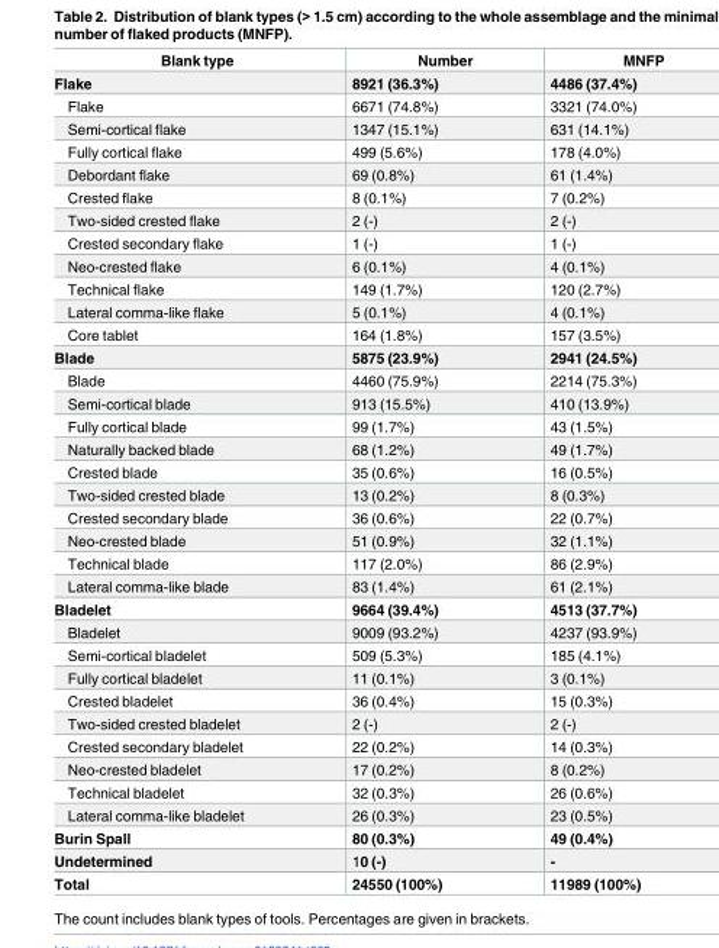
<table><thead><tr><td>Blank type</td><td>Number</td><td>MNFP</td></tr></thead><tbody><tr><td>Flake</td><td>8921 (36.3%)</td><td>4486 (37.4%)</td></tr><tr><td>Flake</td><td>6671 (74.8%)</td><td>3321 (74.0%)</td></tr><tr><td>Semi-cortical flake</td><td>1347 (15.1%)</td><td>631 (14.1%)</td></tr><tr><td>Fully cortical flake</td><td>499 (5.6%)</td><td>178 (4.0%)</td></tr><tr><td>Debordant flake</td><td>69 (0.8%)</td><td>61 (1.4%)</td></tr><tr><td>Crested flake</td><td>8 (0.1%)</td><td>7 (0.2%)</td></tr><tr><td>Two-sided crested flake</td><td>2 (-)</td><td>2 (-)</td></tr><tr><td>Crested secondary flake</td><td>1 (-)</td><td>1 (-)</td></tr><tr><td>Neo-crested flake</td><td>6 (0.1%)</td><td>4 (0.1%)</td></tr><tr><td>Technical flake</td><td>149 (1.7%)</td><td>120 (2.7%)</td></tr><tr><td>Lateral comma-like flake</td><td>5 (0.1%)</td><td>4 (0.1%)</td></tr><tr><td>Core tablet</td><td>164 (1.8%)</td><td>157 (3.5%)</td></tr><tr><td>Blade</td><td>5875 (23.9%)</td><td>2941 (24.5%)</td></tr><tr><td>Blade</td><td>4460 (75.9%)</td><td>2214 (75.3%)</td></tr><tr><td>Semi-cortical blade</td><td>913 (15.5%)</td><td>410 (13.9%)</td></tr><tr><td>Fully cortical blade</td><td>99 (1.7%)</td><td>43 (1.5%)</td></tr><tr><td>Naturally backed blade</td><td>68 (1.2%)</td><td>49 (1.7%)</td></tr><tr><td>Crested blade</td><td>35 (0.6%)</td><td>16 (0.5%)</td></tr><tr><td>Two-sided crested blade</td><td>13 (0.2%)</td><td>8 (0.3%)</td></tr><tr><td>Crested secondary blade</td><td>36 (0.6%)</td><td>22 (0.7%)</td></tr><tr><td>Neo-crested blade</td><td>51 (0.9%)</td><td>32 (1.1%)</td></tr><tr><td>Technical blade</td><td>117 (2.0%)</td><td>86 (2.9%)</td></tr><tr><td>Lateral comma-like blade</td><td>83 (1.4%)</td><td>61 (2.1%)</td></tr><tr><td>Bladelet</td><td>9664 (39.4%)</td><td>4513 (37.7%)</td></tr><tr><td>Bladelet</td><td>9009 (93.2%)</td><td>4237 (93.9%)</td></tr><tr><td>Semi-cortical bladelet</td><td>509 (5.3%)</td><td>185 (4.1%)</td></tr><tr><td>Fully cortical bladelet</td><td>11 (0.1%)</td><td>3 (0.1%)</td></tr><tr><td>Crested bladelet</td><td>36 (0.4%)</td><td>15 (0.3%)</td></tr><tr><td>Two-sided crested bladelet</td><td>2 (-)</td><td>2 (-)</td></tr><tr><td>Crested secondary bladelet</td><td>22 (0.2%)</td><td>14 (0.3%)</td></tr><tr><td>Neo-crested bladelet</td><td>17 (0.2%)</td><td>8 (0.2%)</td></tr><tr><td>Technical bladelet</td><td>32 (0.3%)</td><td>26 (0.6%)</td></tr><tr><td>Lateral comma-like bladelet</td><td>26 (0.3%)</td><td>23 (0.5%)</td></tr><tr><td>Burin Spall</td><td>80 (0.3%)</td><td>49 (0.4%)</td></tr><tr><td>Undetermined</td><td>10 (-)</td><td>-</td></tr><tr><td>Total</td><td>24550 (100%)</td><td>11989 (100%)</td></tr></tbody></table>